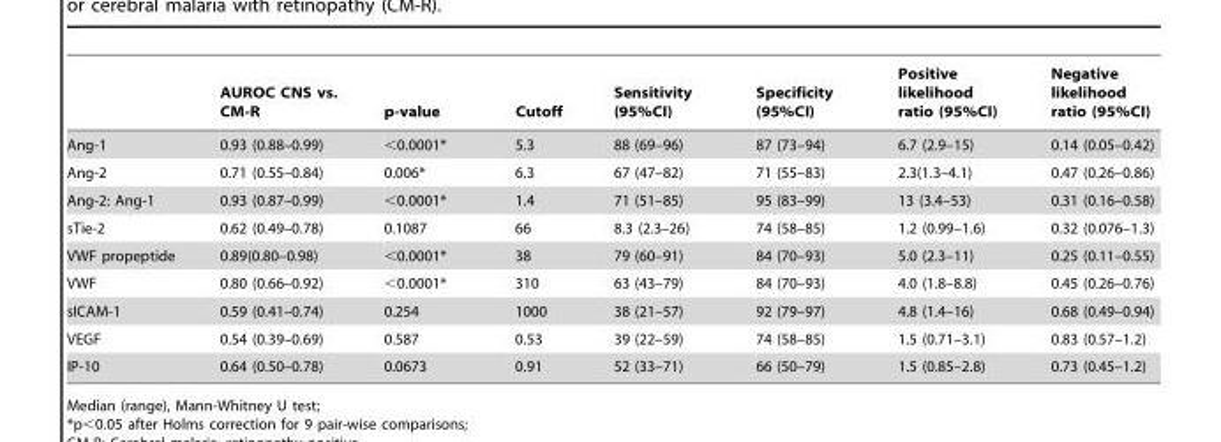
<table><thead><tr><td></td><td>AUROC CNS vs. CM-R</td><td>p-value</td><td>Cutoff</td><td>Sensitivity (95%CI)</td><td>Specificity (95%CI)</td><td>Positive likelihood ratio (95%CI)</td><td>Negative likelihood ratio (95%CI)</td></tr></thead><tbody><tr><td>Ang-1</td><td>0.93 (0.88–0.99)</td><td>&lt;0.0001*</td><td>5.3</td><td>88 (69–96)</td><td>87 (73–94)</td><td>6.7 (2.9–15)</td><td>0.14 (0.05–0.42)</td></tr><tr><td>Ang-2</td><td>0.71 (0.55–0.84)</td><td>0.006*</td><td>6.3</td><td>67 (47–82)</td><td>71 (55–83)</td><td>2.3(1.3–4.1)</td><td>0.47 (0.26–0.86)</td></tr><tr><td>Ang-2: Ang-1</td><td>0.93 (0.87–0.99)</td><td>&lt;0.0001*</td><td>1.4</td><td>71 (51–85)</td><td>95 (83–99)</td><td>13 (3.4–53)</td><td>0.31 (0.16–0.58)</td></tr><tr><td>sTie-2</td><td>0.62 (0.49–0.78)</td><td>0.1087</td><td>66</td><td>8.3 (2.3–26)</td><td>74 (58–85)</td><td>1.2 (0.99–1.6)</td><td>0.32 (0.076–1.3)</td></tr><tr><td>VWF propeptide</td><td>0.89(0.80–0.98)</td><td>&lt;0.0001*</td><td>38</td><td>79 (60–91)</td><td>84 (70–93)</td><td>5.0 (2.3–11)</td><td>0.25 (0.11–0.55)</td></tr><tr><td>VWF</td><td>0.80 (0.66–0.92)</td><td>&lt;0.0001*</td><td>310</td><td>63 (43–79)</td><td>84 (70–93)</td><td>4.0 (1.8–8.8)</td><td>0.45 (0.26–0.76)</td></tr><tr><td>sICAM-1</td><td>0.59 (0.41–0.74)</td><td>0.254</td><td>1000</td><td>38 (21–57)</td><td>92 (79–97)</td><td>4.8 (1.4–16)</td><td>0.68 (0.49–0.94)</td></tr><tr><td>VEGF</td><td>0.54 (0.39–0.69)</td><td>0.587</td><td>0.53</td><td>39 (22–59)</td><td>74 (58–85)</td><td>1.5 (0.71–3.1)</td><td>0.83 (0.57–1.2)</td></tr><tr><td>IP-10</td><td>0.64 (0.50–0.78)</td><td>0.0673</td><td>0.91</td><td>52 (33–71)</td><td>66 (50–79)</td><td>1.5 (0.85–2.8)</td><td>0.73 (0.45–1.2)</td></tr></tbody></table>